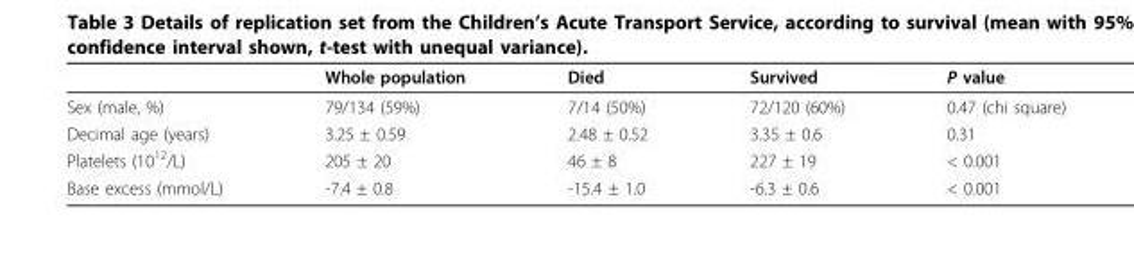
<table><thead><tr><td></td><td>Whole population</td><td>Died</td><td>Survived</td><td>P value</td></tr></thead><tbody><tr><td>Sex (male, %)</td><td>79/134 (59%)</td><td>7/14 (50%)</td><td>72/120 (60%)</td><td>0.47 (chi square)</td></tr><tr><td>Decimal age (years)</td><td>3.25 ± 0.59</td><td>2.48 ± 0.52</td><td>3.35 ± 0.6</td><td>0.31</td></tr><tr><td>Platelets (10<sup>12</sup>/L)</td><td>205 ± 20</td><td>46 ± 8</td><td>227 ± 19</td><td>&lt; 0.001</td></tr><tr><td>Base excess (mmol/L)</td><td>-7.4 ± 0.8</td><td>-15.4 ± 1.0</td><td>-6.3 ± 0.6</td><td>&lt; 0.001</td></tr></tbody></table>